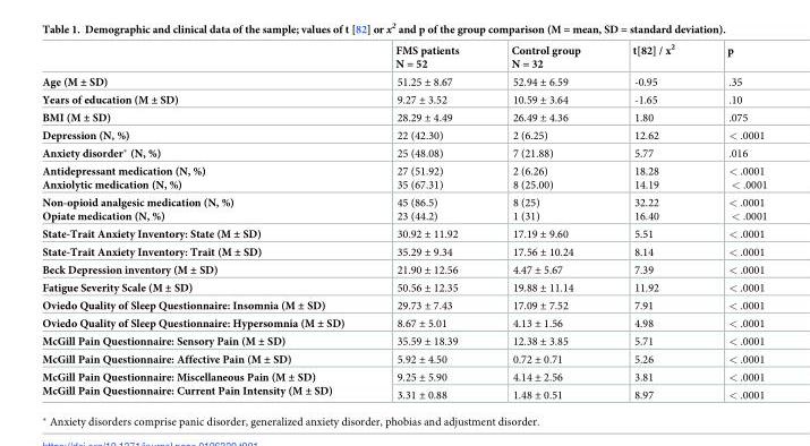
<table><thead><tr><td></td><td>FMS patients N = 52</td><td>Control group N = 32</td><td>t[82] / x<sup>2</sup></td><td>p</td></tr></thead><tbody><tr><td>Age (M ± SD)</td><td>51.25 ± 8.67</td><td>52.94 ± 6.59</td><td>-0.95</td><td>.35</td></tr><tr><td>Years of education (M ± SD)</td><td>9.27 ± 3.52</td><td>10.59 ± 3.64</td><td>-1.65</td><td>.10</td></tr><tr><td>BMI (M ± SD)</td><td>28.29 ± 4.49</td><td>26.49 ± 4.36</td><td>1.80</td><td>.075</td></tr><tr><td>Depression (N, %)</td><td>22 (42.30)</td><td>2 (6.25)</td><td>12.62</td><td>&lt; .0001</td></tr><tr><td>Anxiety disorder* (N, %)</td><td>25 (48.08)</td><td>7 (21.88)</td><td>5.77</td><td>.016</td></tr><tr><td>Antidepressant medication (N, %) Anxiolytic medication (N, %)</td><td>27 (51.92) 35 (67.31)</td><td>2 (6.26) 8 (25.00)</td><td>18.28 14.19</td><td>&lt; .0001 &lt; .0001</td></tr><tr><td>Non-opioid analgesic medication (N, %) Opiate medication (N, %)</td><td>45 (86.5) 23 (44.2)</td><td>8 (25) 1 (31)</td><td>32.22 16.40</td><td>&lt; .0001 &lt; .0001</td></tr><tr><td>State-Trait Anxiety Inventory: State (M ± SD)</td><td>30.92 ± 11.92</td><td>17.19 ± 9.60</td><td>5.51</td><td>&lt; .0001</td></tr><tr><td>State-Trait Anxiety Inventory: Trait (M ± SD)</td><td>35.29 ± 9.34</td><td>17.56 ± 10.24</td><td>8.14</td><td>&lt; .0001</td></tr><tr><td>Beck Depression inventory (M ± SD)</td><td>21.90 ± 12.56</td><td>4.47 ± 5.67</td><td>7.39</td><td>&lt; .0001</td></tr><tr><td>Fatigue Severity Scale (M ± SD)</td><td>50.56 ± 12.35</td><td>19.88 ± 11.14</td><td>11.92</td><td>&lt; .0001</td></tr><tr><td>Oviedo Quality of Sleep Questionnaire: Insomnia (M ± SD)</td><td>29.73 ± 7.43</td><td>17.09 ± 7.52</td><td>7.91</td><td>&lt; .0001</td></tr><tr><td>Oviedo Quality of Sleep Questionnaire: Hypersomnia (M ± SD)</td><td>8.67 ± 5.01</td><td>4.13 ± 1.56</td><td>4.98</td><td>&lt; .0001</td></tr><tr><td>McGill Pain Questionnaire: Sensory Pain (M ± SD)</td><td>35.59 ± 18.39</td><td>12.38 ± 3.85</td><td>5.71</td><td>&lt; .0001</td></tr><tr><td>McGill Pain Questionnaire: Affective Pain (M ± SD)</td><td>5.92 ± 4.50</td><td>0.72 ± 0.71</td><td>5.26</td><td>&lt; .0001</td></tr><tr><td rowspan="2">McGill Pain Questionnaire: Miscellaneous Pain (M ± SD) McGill Pain Questionnaire: Current Pain Intensity (M ± SD)</td><td>9.25 ± 5.90</td><td>4.14 ± 2.56</td><td>3.81</td><td>&lt; .0001</td></tr><tr><td>3.31 ± 0.88</td><td>1.48 ± 0.51</td><td>8.97</td><td>&lt; .0001</td></tr></tbody></table>